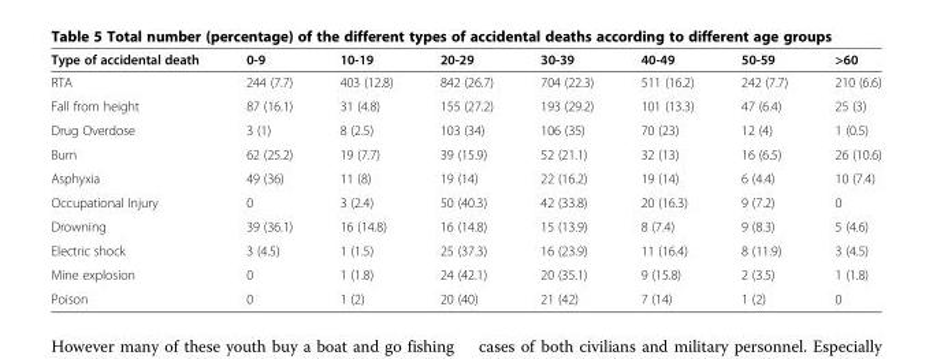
<table><thead><tr><td>Type of accidental death</td><td>0-9</td><td>10-19</td><td>20-29</td><td>30-39</td><td>40-49</td><td>50-59</td><td>&gt;60</td></tr></thead><tbody><tr><td>RTA</td><td>244 (7.7)</td><td>403 (12.8)</td><td>842 (26.7)</td><td>704 (22.3)</td><td>511 (16.2)</td><td>242 (7.7)</td><td>210 (6.6)</td></tr><tr><td>Fall from height</td><td>87 (16.1)</td><td>31 (4.8)</td><td>155 (27.2)</td><td>193 (29.2)</td><td>101 (13.3)</td><td>47 (6.4)</td><td>25 (3)</td></tr><tr><td>Drug Overdose</td><td>3 (1)</td><td>8 (2.5)</td><td>103 (34)</td><td>106 (35)</td><td>70 (23)</td><td>12 (4)</td><td>1 (0.5)</td></tr><tr><td>Burn</td><td>62 (25.2)</td><td>19 (7.7)</td><td>39 (15.9)</td><td>52 (21.1)</td><td>32 (13)</td><td>16 (6.5)</td><td>26 (10.6)</td></tr><tr><td>Asphyxia</td><td>49 (36)</td><td>11 (8)</td><td>19 (14)</td><td>22 (16.2)</td><td>19 (14)</td><td>6 (4.4)</td><td>10 (7.4)</td></tr><tr><td>Occupational Injury</td><td>0</td><td>3 (2.4)</td><td>50 (40.3)</td><td>42 (33.8)</td><td>20 (16.3)</td><td>9 (7.2)</td><td>0</td></tr><tr><td>Drowning</td><td>39 (36.1)</td><td>16 (14.8)</td><td>16 (14.8)</td><td>15 (13.9)</td><td>8 (7.4)</td><td>9 (8.3)</td><td>5 (4.6)</td></tr><tr><td>Electric shock</td><td>3 (4.5)</td><td>1 (1.5)</td><td>25 (37.3)</td><td>16 (23.9)</td><td>11 (16.4)</td><td>8 (11.9)</td><td>3 (4.5)</td></tr><tr><td>Mine explosion</td><td>0</td><td>1 (1.8)</td><td>24 (42.1)</td><td>20 (35.1)</td><td>9 (15.8)</td><td>2 (3.5)</td><td>1 (1.8)</td></tr><tr><td>Poison</td><td>0</td><td>1 (2)</td><td>20 (40)</td><td>21 (42)</td><td>7 (14)</td><td>1 (2)</td><td>0</td></tr></tbody></table>